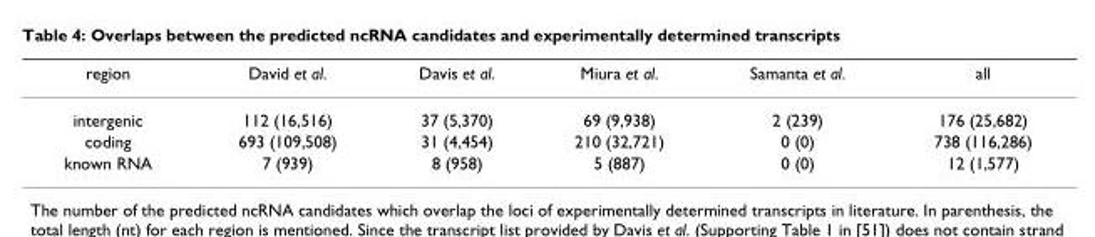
<table><thead><tr><td>region</td><td>David et al.</td><td>Davis et al.</td><td>Miura et al.</td><td>Samanta et al.</td><td>all</td></tr></thead><tbody><tr><td>intergenic</td><td>112 (16,516)</td><td>37 (5,370)</td><td>69 (9,938)</td><td>2 (239)</td><td>176 (25,682)</td></tr><tr><td>coding</td><td>693 (109,508)</td><td>31 (4,454)</td><td>210 (32,721)</td><td>0 (0)</td><td>738 (116,286)</td></tr><tr><td>known RNA</td><td>7 (939)</td><td>8 (958)</td><td>5 (887)</td><td>0 (0)</td><td>12 (1,577)</td></tr></tbody></table>